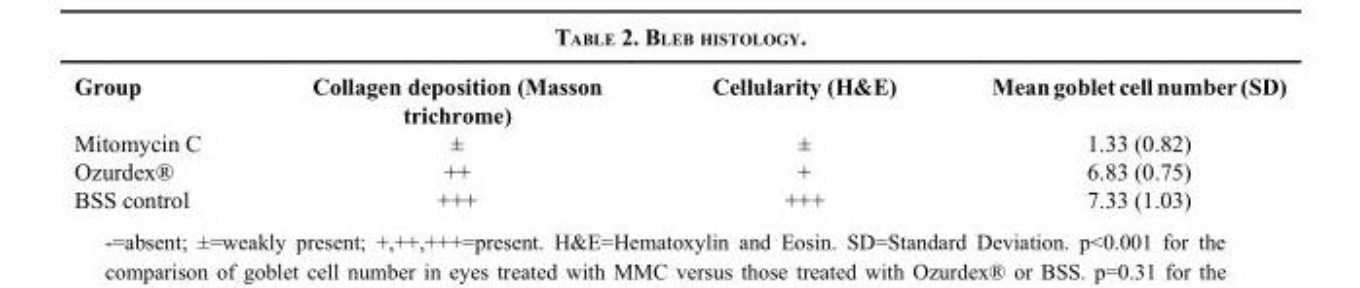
<table><thead><tr><td>Group</td><td>Collagen deposition (Masson trichrome)</td><td>Cellularity (H&amp;E)</td><td>Mean goblet cell number (SD)</td></tr></thead><tbody><tr><td>Mitomycin C</td><td>±</td><td>±</td><td>1.33 (0.82)</td></tr><tr><td>Ozurdex®</td><td>++</td><td>+</td><td>6.83 (0.75)</td></tr><tr><td>BSS control</td><td>+++</td><td>+++</td><td>7.33 (1.03)</td></tr></tbody></table>